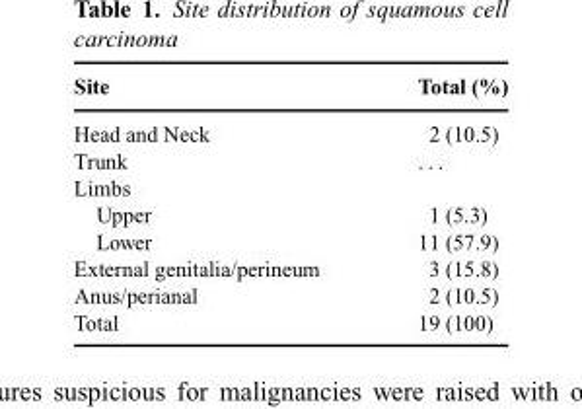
<table><thead><tr><td>Site</td><td>Total (%)</td></tr></thead><tbody><tr><td>Head and Neck</td><td>2 (10.5)</td></tr><tr><td>Trunk</td><td>. . .</td></tr><tr><td colspan="2">Limbs</td></tr><tr><td>Upper</td><td>1 (5.3)</td></tr><tr><td>Lower</td><td>11 (57.9)</td></tr><tr><td>External genitalia/perineum</td><td>3 (15.8)</td></tr><tr><td>Anus/perianal</td><td>2 (10.5)</td></tr><tr><td>Total</td><td>19 (100)</td></tr></tbody></table>